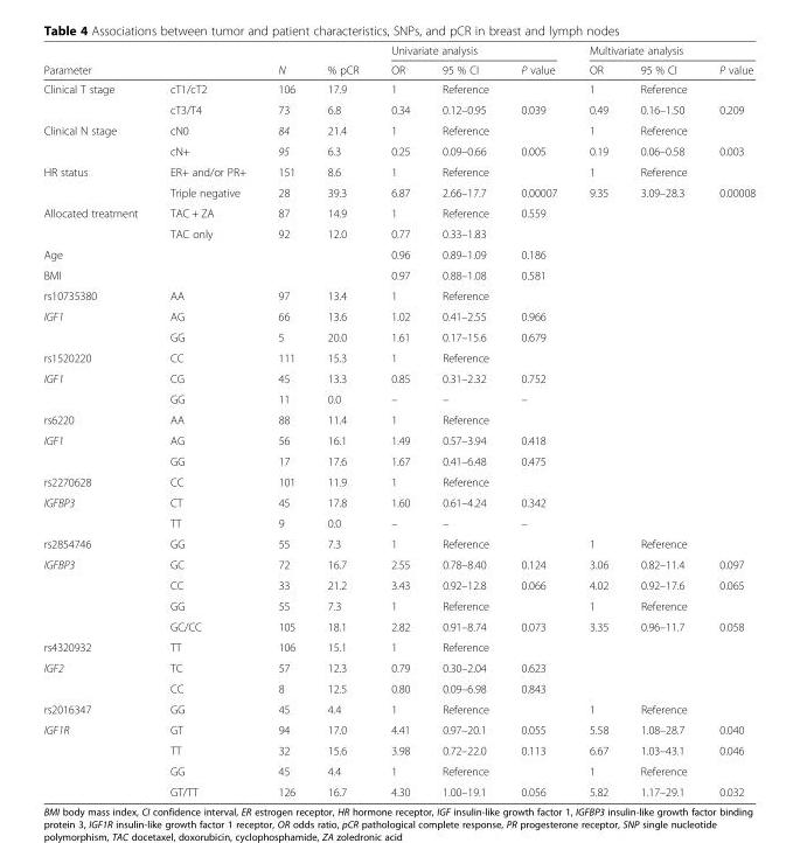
<table><thead><tr><td rowspan="2">Parameter</td><td rowspan="2"></td><td rowspan="2">N</td><td rowspan="2">% pCR</td><td colspan="3">Univariate analysis</td><td colspan="3">Multivariate analysis</td></tr><tr><td>OR</td><td>95 % CI</td><td>P value</td><td>OR</td><td>95 % CI</td><td>P value</td></tr></thead><tbody><tr><td rowspan="2">Clinical T stage</td><td>cT1/cT2</td><td>106</td><td>17.9</td><td>1</td><td>Reference</td><td></td><td>1</td><td>Reference</td><td></td></tr><tr><td>cT3/T4</td><td>73</td><td>6.8</td><td>0.34</td><td>0.12–0.95</td><td>0.039</td><td>0.49</td><td>0.16–1.50</td><td>0.209</td></tr><tr><td rowspan="2">Clinical N stage</td><td>cN0</td><td>84</td><td>21.4</td><td>1</td><td>Reference</td><td></td><td>1</td><td>Reference</td><td></td></tr><tr><td>cN+</td><td>95</td><td>6.3</td><td>0.25</td><td>0.09–0.66</td><td>0.005</td><td>0.19</td><td>0.06–0.58</td><td>0.003</td></tr><tr><td rowspan="2">HR status</td><td>ER+ and/or PR+</td><td>151</td><td>8.6</td><td>1</td><td>Reference</td><td></td><td>1</td><td>Reference</td><td></td></tr><tr><td>Triple negative</td><td>28</td><td>39.3</td><td>6.87</td><td>2.66–17.7</td><td>0.00007</td><td>9.35</td><td>3.09–28.3</td><td>0.00008</td></tr><tr><td rowspan="2">Allocated treatment</td><td>TAC + ZA</td><td>87</td><td>14.9</td><td>1</td><td>Reference</td><td>0.559</td><td></td><td></td><td></td></tr><tr><td>TAC only</td><td>92</td><td>12.0</td><td>0.77</td><td>0.33–1.83</td><td></td><td></td><td></td><td></td></tr><tr><td>Age</td><td></td><td></td><td></td><td>0.96</td><td>0.89–1.09</td><td>0.186</td><td></td><td></td><td></td></tr><tr><td>BMI</td><td></td><td></td><td></td><td>0.97</td><td>0.88–1.08</td><td>0.581</td><td></td><td></td><td></td></tr><tr><td>rs10735380</td><td>AA</td><td>97</td><td>13.4</td><td>1</td><td>Reference</td><td></td><td></td><td></td><td></td></tr><tr><td rowspan="2">IGF1</td><td>AG</td><td>66</td><td>13.6</td><td>1.02</td><td>0.41–2.55</td><td>0.966</td><td></td><td></td><td></td></tr><tr><td>GG</td><td>5</td><td>20.0</td><td>1.61</td><td>0.17–15.6</td><td>0.679</td><td></td><td></td><td></td></tr><tr><td>rs1520220</td><td>CC</td><td>111</td><td>15.3</td><td>1</td><td>Reference</td><td></td><td></td><td></td><td></td></tr><tr><td rowspan="2">IGF1</td><td>CG</td><td>45</td><td>13.3</td><td>0.85</td><td>0.31–2.32</td><td>0.752</td><td></td><td></td><td></td></tr><tr><td>GG</td><td>11</td><td>0.0</td><td>–</td><td>–</td><td>–</td><td></td><td></td><td></td></tr><tr><td>rs6220</td><td>AA</td><td>88</td><td>11.4</td><td>1</td><td>Reference</td><td></td><td></td><td></td><td></td></tr><tr><td rowspan="2">IGF1</td><td>AG</td><td>56</td><td>16.1</td><td>1.49</td><td>0.57–3.94</td><td>0.418</td><td></td><td></td><td></td></tr><tr><td>GG</td><td>17</td><td>17.6</td><td>1.67</td><td>0.41–6.48</td><td>0.475</td><td></td><td></td><td></td></tr><tr><td>rs2270628</td><td>CC</td><td>101</td><td>11.9</td><td>1</td><td>Reference</td><td></td><td></td><td></td><td></td></tr><tr><td rowspan="2">IGFBP3</td><td>CT</td><td>45</td><td>17.8</td><td>1.60</td><td>0.61–4.24</td><td>0.342</td><td></td><td></td><td></td></tr><tr><td>TT</td><td>9</td><td>0.0</td><td>–</td><td>–</td><td>–</td><td></td><td></td><td></td></tr><tr><td>rs2854746</td><td>GG</td><td>55</td><td>7.3</td><td>1</td><td>Reference</td><td></td><td>1</td><td>Reference</td><td></td></tr><tr><td rowspan="4">IGFBP3</td><td>GC</td><td>72</td><td>16.7</td><td>2.55</td><td>0.78–8.40</td><td>0.124</td><td>3.06</td><td>0.82–11.4</td><td>0.097</td></tr><tr><td>CC</td><td>33</td><td>21.2</td><td>3.43</td><td>0.92–12.8</td><td>0.066</td><td>4.02</td><td>0.92–17.6</td><td>0.065</td></tr><tr><td>GG</td><td>55</td><td>7.3</td><td>1</td><td>Reference</td><td></td><td>1</td><td>Reference</td><td></td></tr><tr><td>GC/CC</td><td>105</td><td>18.1</td><td>2.82</td><td>0.91–8.74</td><td>0.073</td><td>3.35</td><td>0.96–11.7</td><td>0.058</td></tr><tr><td>rs4320932</td><td>TT</td><td>106</td><td>15.1</td><td>1</td><td>Reference</td><td></td><td></td><td></td><td></td></tr><tr><td rowspan="2">IGF2</td><td>TC</td><td>57</td><td>12.3</td><td>0.79</td><td>0.30–2.04</td><td>0.623</td><td></td><td></td><td></td></tr><tr><td>CC</td><td>8</td><td>12.5</td><td>0.80</td><td>0.09–6.98</td><td>0.843</td><td></td><td></td><td></td></tr><tr><td>rs2016347</td><td>GG</td><td>45</td><td>4.4</td><td>1</td><td>Reference</td><td></td><td>1</td><td>Reference</td><td></td></tr><tr><td rowspan="4">IGF1R</td><td>GT</td><td>94</td><td>17.0</td><td>4.41</td><td>0.97–20.1</td><td>0.055</td><td>5.58</td><td>1.08–28.7</td><td>0.040</td></tr><tr><td>TT</td><td>32</td><td>15.6</td><td>3.98</td><td>0.72–22.0</td><td>0.113</td><td>6.67</td><td>1.03–43.1</td><td>0.046</td></tr><tr><td>GG</td><td>45</td><td>4.4</td><td>1</td><td>Reference</td><td></td><td>1</td><td>Reference</td><td></td></tr><tr><td>GT/TT</td><td>126</td><td>16.7</td><td>4.30</td><td>1.00–19.1</td><td>0.056</td><td>5.82</td><td>1.17–29.1</td><td>0.032</td></tr></tbody></table>